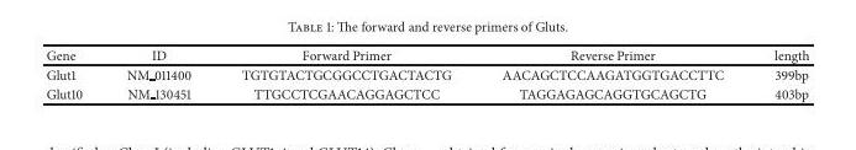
<table><thead><tr><td>Gene</td><td>ID</td><td>Forward Primer</td><td>Reverse Primer</td><td>length</td></tr></thead><tbody><tr><td>Glut1</td><td>NM 011400</td><td>TGTGTACTGCGGCCTGACTACTG</td><td>AACAGCTCCAAGATGGTGACCTTC</td><td>399bp</td></tr><tr><td>Glut10</td><td>NM 130451</td><td>TTGCCTCGAACAGGAGCTCC</td><td>TAGGAGAGCAGGTGCAGCTG</td><td>403bp</td></tr></tbody></table>